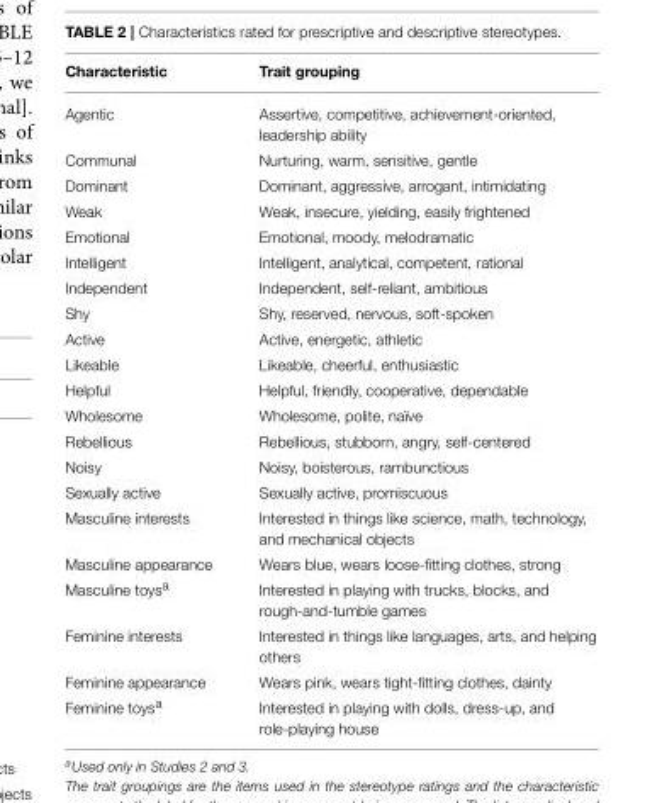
<table><thead><tr><td>Characteristic</td><td>Trait grouping</td></tr></thead><tbody><tr><td>Agentic</td><td>Assertive, competitive, achievement-oriented, leadership ability</td></tr><tr><td>Communal</td><td>Nurturing, warm, sensitive, gentle</td></tr><tr><td>Dominant</td><td>Dominant, aggressive, arrogant, intimidating</td></tr><tr><td>Weak</td><td>Weak, insecure, yielding, easily frightened</td></tr><tr><td>Emotional</td><td>Emotional, moody, melodramatic</td></tr><tr><td>Intelligent</td><td>Intelligent, analytical, competent, rational</td></tr><tr><td>Independent</td><td>Independent, self-reliant, ambitious</td></tr><tr><td>Shy</td><td>Shy, reserved, nervous, soft-spoken</td></tr><tr><td>Active</td><td>Active, energetic, athletic</td></tr><tr><td>Likeable</td><td>Likeable, cheerful, enthusiastic</td></tr><tr><td>Helpful</td><td>Helpful, friendly, cooperative, dependable</td></tr><tr><td>Wholesome</td><td>Wholesome, polite, naïve</td></tr><tr><td>Rebellious</td><td>Rebellious, stubborn, angry, self-centered</td></tr><tr><td>Noisy</td><td>Noisy, boisterous, rambunctious</td></tr><tr><td>Sexually active</td><td>Sexually active, promiscuous</td></tr><tr><td>Masculine interests</td><td>Interested in things like science, math, technology, and mechanical objects</td></tr><tr><td>Masculine appearance</td><td>Wears blue, wears loose-fitting clothes, strong</td></tr><tr><td>Masculine toys<sup>a</sup></td><td>Interested in playing with trucks, blocks, and rough-and-tumble games</td></tr><tr><td>Feminine interests</td><td>Interested in things like languages, arts, and helping others</td></tr><tr><td>Feminine appearance</td><td>Wears pink, wears tight-fitting clothes, dainty</td></tr><tr><td>Feminine toys<sup>a</sup></td><td>Interested in playing with dolls, dress-up, and role-playing house</td></tr></tbody></table>